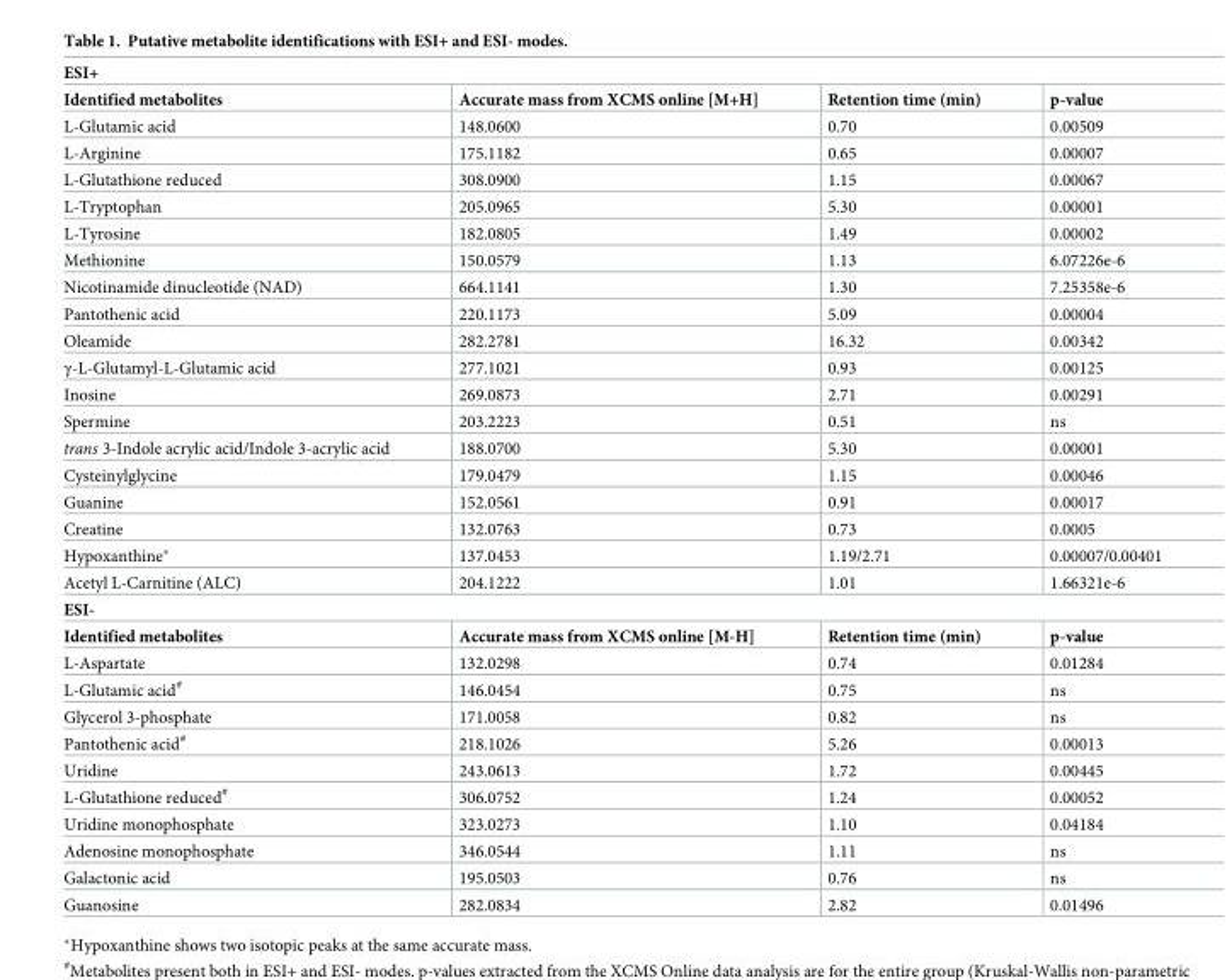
<table><tbody><tr><td colspan="4">ESI+</td></tr><tr><td>Identified metabolites</td><td>Accurate mass from XCMS online [M+H]</td><td>Retention time (min)</td><td>p-value</td></tr><tr><td>L-Glutamic acid</td><td>148.0600</td><td>0.70</td><td>0.00509</td></tr><tr><td>L-Arginine</td><td>175.1182</td><td>0.65</td><td>0.00007</td></tr><tr><td>L-Glutathione reduced</td><td>308.0900</td><td>1.15</td><td>0.00067</td></tr><tr><td>L-Tryptophan</td><td>205.0965</td><td>5.30</td><td>0.00001</td></tr><tr><td>L-Tyrosine</td><td>182.0805</td><td>1.49</td><td>0.00002</td></tr><tr><td>Methionine</td><td>150.0579</td><td>1.13</td><td>6.07226e-6</td></tr><tr><td>Nicotinamide dinucleotide (NAD)</td><td>664.1141</td><td>1.30</td><td>7.25358e-6</td></tr><tr><td>Pantothenic acid</td><td>220.1173</td><td>5.09</td><td>0.00004</td></tr><tr><td>Oleamide</td><td>282.2781</td><td>16.32</td><td>0.00342</td></tr><tr><td>γ-L-Glutamyl-L-Glutamic acid</td><td>277.1021</td><td>0.93</td><td>0.00125</td></tr><tr><td>Inosine</td><td>269.0873</td><td>2.71</td><td>0.00291</td></tr><tr><td>Spermine</td><td>203.2223</td><td>0.51</td><td>ns</td></tr><tr><td>trans 3-Indole acrylic acid/Indole 3-acrylic acid</td><td>188.0700</td><td>5.30</td><td>0.00001</td></tr><tr><td>Cysteinylglycine</td><td>179.0479</td><td>1.15</td><td>0.00046</td></tr><tr><td>Guanine</td><td>152.0561</td><td>0.91</td><td>0.00017</td></tr><tr><td>Creatine</td><td>132.0763</td><td>0.73</td><td>0.0005</td></tr><tr><td>Hypoxanthine*</td><td>137.0453</td><td>1.19/2.71</td><td>0.00007/0.00401</td></tr><tr><td>Acetyl L-Carnitine (ALC)</td><td>204.1222</td><td>1.01</td><td>1.66321e-6</td></tr><tr><td colspan="4">ESI-</td></tr><tr><td>Identified metabolites</td><td>Accurate mass from XCMS online [M-H]</td><td>Retention time (min)</td><td>p-value</td></tr><tr><td>L-Aspartate</td><td>132.0298</td><td>0.74</td><td>0.01284</td></tr><tr><td>L-Glutamic acid<sup>#</sup></td><td>146.0454</td><td>0.75</td><td>ns</td></tr><tr><td>Glycerol 3-phosphate</td><td>171.0058</td><td>0.82</td><td>ns</td></tr><tr><td>Pantothenic acid<sup>#</sup></td><td>218.1026</td><td>5.26</td><td>0.00013</td></tr><tr><td>Uridine</td><td>243.0613</td><td>1.72</td><td>0.00445</td></tr><tr><td>L-Glutathione reduced<sup>#</sup></td><td>306.0752</td><td>1.24</td><td>0.00052</td></tr><tr><td>Uridine monophosphate</td><td>323.0273</td><td>1.10</td><td>0.04184</td></tr><tr><td>Adenosine monophosphate</td><td>346.0544</td><td>1.11</td><td>ns</td></tr><tr><td>Galactonic acid</td><td>195.0503</td><td>0.76</td><td>ns</td></tr><tr><td>Guanosine</td><td>282.0834</td><td>2.82</td><td>0.01496</td></tr></tbody></table>